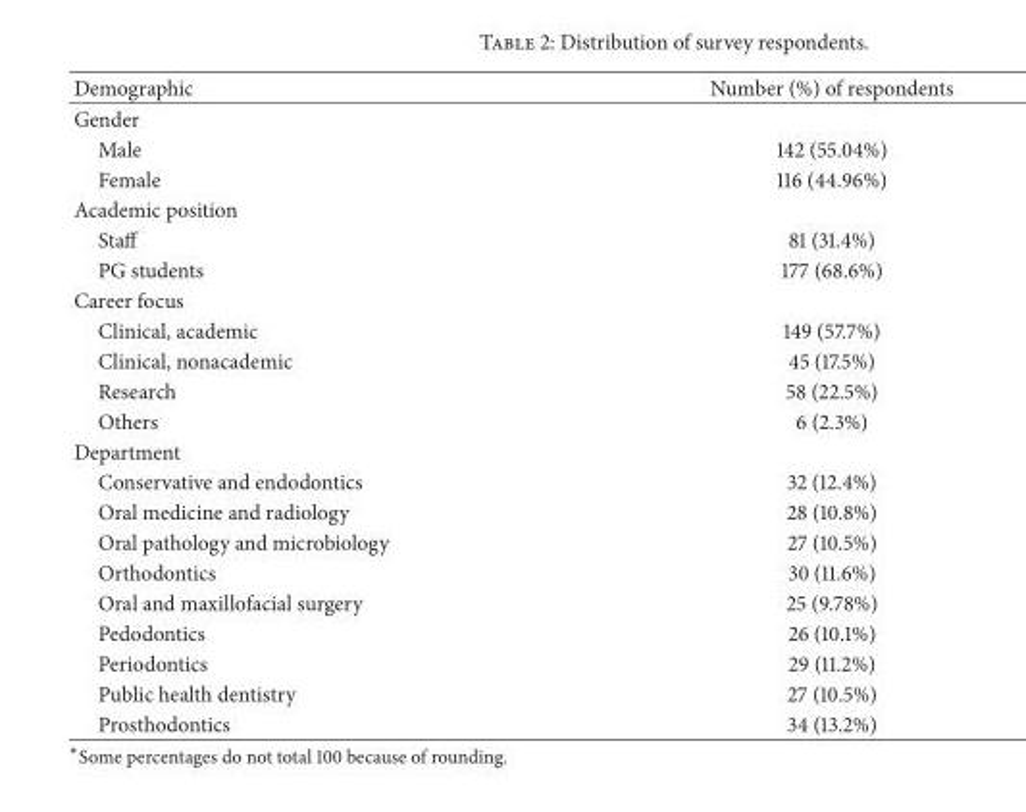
<table><thead><tr><td>Demographic</td><td>Number (%) of respondents</td></tr></thead><tbody><tr><td colspan="2">Gender</td></tr><tr><td>Male</td><td>142 (55.04%)</td></tr><tr><td>Female</td><td>116 (44.96%)</td></tr><tr><td colspan="2">Academic position</td></tr><tr><td>Staff</td><td>81 (31.4%)</td></tr><tr><td>PG students</td><td>177 (68.6%)</td></tr><tr><td colspan="2">Career focus</td></tr><tr><td>Clinical, academic</td><td>149 (57.7%)</td></tr><tr><td>Clinical, nonacademic</td><td>45 (17.5%)</td></tr><tr><td>Research</td><td>58 (22.5%)</td></tr><tr><td>Others</td><td>6 (2.3%)</td></tr><tr><td colspan="2">Department</td></tr><tr><td>Conservative and endodontics</td><td>32 (12.4%)</td></tr><tr><td>Oral medicine and radiology</td><td>28 (10.8%)</td></tr><tr><td>Oral pathology and microbiology</td><td>27 (10.5%)</td></tr><tr><td>Orthodontics</td><td>30 (11.6%)</td></tr><tr><td>Oral and maxillofacial surgery</td><td>25 (9.78%)</td></tr><tr><td>Pedodontics</td><td>26 (10.1%)</td></tr><tr><td>Periodontics</td><td>29 (11.2%)</td></tr><tr><td>Public health dentistry</td><td>27 (10.5%)</td></tr><tr><td>Prosthodontics</td><td>34 (13.2%)</td></tr></tbody></table>